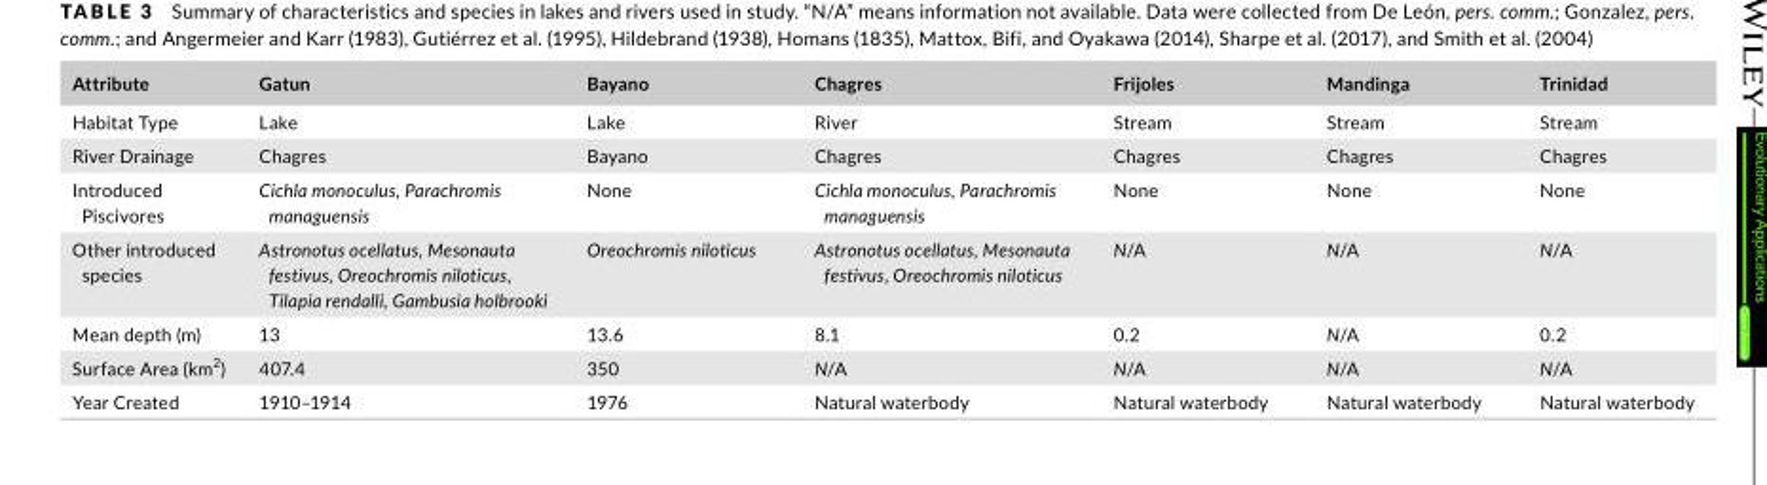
<table><thead><tr><td>Attribute</td><td>Gatun</td><td>Bayano</td><td>Chagres</td><td>Frijoles</td><td>Mandinga</td><td>Trinidad</td></tr></thead><tbody><tr><td>Habitat Type</td><td>Lake</td><td>Lake</td><td>River</td><td>Stream</td><td>Stream</td><td>Stream</td></tr><tr><td>River Drainage</td><td>Chagres</td><td>Bayano</td><td>Chagres</td><td>Chagres</td><td>Chagres</td><td>Chagres</td></tr><tr><td>Introduced Piscivores</td><td>Cichla monoculus, Parachromis managuensis</td><td>None</td><td>Cichla monoculus, Parachromis managuensis</td><td>None</td><td>None</td><td>None</td></tr><tr><td>Other introduced species</td><td>Astronotus ocellatus, Mesonauta festivus, Oreochromis niloticus, Tilapia rendalli, Gambusia holbrooki</td><td>Oreochromis niloticus</td><td>Astronotus ocellatus, Mesonauta festivus, Oreochromis niloticus</td><td>N/A</td><td>N/A</td><td>N/A</td></tr><tr><td>Mean depth (m)</td><td>13</td><td>13.6</td><td>8.1</td><td>0.2</td><td>N/A</td><td>0.2</td></tr><tr><td>Surface Area (km<sup>2</sup>)</td><td>407.4</td><td>350</td><td>N/A</td><td>N/A</td><td>N/A</td><td>N/A</td></tr><tr><td>Year Created</td><td>1910–1914</td><td>1976</td><td>Natural waterbody</td><td>Natural waterbody</td><td>Natural waterbody</td><td>Natural waterbody</td></tr></tbody></table>